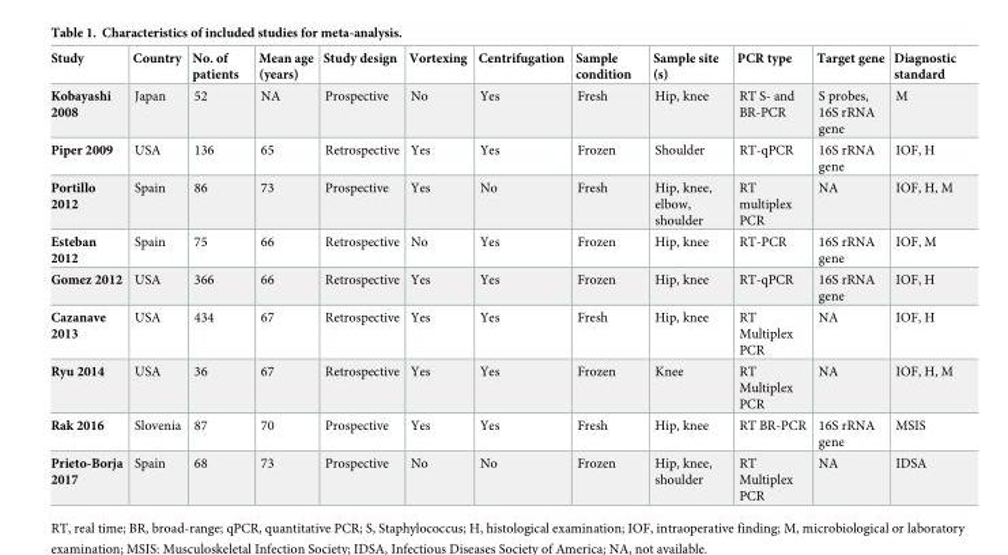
<table><thead><tr><td>Study</td><td>Country</td><td>No. of patients</td><td>Mean age (years)</td><td>Study design</td><td>Vortexing</td><td>Centrifugation</td><td>Sample condition</td><td>Sample site (s)</td><td>PCR type</td><td>Target gene</td><td>Diagnostic standard</td></tr></thead><tbody><tr><td>Kobayashi 2008</td><td>Japan</td><td>52</td><td>NA</td><td>Prospective</td><td>No</td><td>Yes</td><td>Fresh</td><td>Hip, knee</td><td>RT S- and BR-PCR</td><td>S probes, 16S rRNA gene</td><td>M</td></tr><tr><td>Piper 2009</td><td>USA</td><td>136</td><td>65</td><td>Retrospective</td><td>Yes</td><td>Yes</td><td>Frozen</td><td>Shoulder</td><td>RT-qPCR</td><td>16S rRNA gene</td><td>IOF, H</td></tr><tr><td>Portillo 2012</td><td>Spain</td><td>86</td><td>73</td><td>Prospective</td><td>Yes</td><td>No</td><td>Fresh</td><td>Hip, knee, elbow, shoulder</td><td>RT multiplex PCR</td><td>NA</td><td>IOF, H, M</td></tr><tr><td>Esteban 2012</td><td>Spain</td><td>75</td><td>66</td><td>Retrospective</td><td>No</td><td>Yes</td><td>Frozen</td><td>Hip, knee</td><td>RT-PCR</td><td>16S rRNA gene</td><td>IOF, M</td></tr><tr><td>Gomez 2012</td><td>USA</td><td>366</td><td>66</td><td>Retrospective</td><td>Yes</td><td>Yes</td><td>Frozen</td><td>Hip, knee</td><td>RT-qPCR</td><td>16S rRNA gene</td><td>IOF, H</td></tr><tr><td>Cazanave 2013</td><td>USA</td><td>434</td><td>67</td><td>Retrospective</td><td>Yes</td><td>Yes</td><td>Fresh</td><td>Hip, knee</td><td>RT Multiplex PCR</td><td>NA</td><td>IOF, H</td></tr><tr><td>Ryu 2014</td><td>USA</td><td>36</td><td>67</td><td>Retrospective</td><td>Yes</td><td>Yes</td><td>Frozen</td><td>Knee</td><td>RT Multiplex PCR</td><td>NA</td><td>IOF, H, M</td></tr><tr><td>Rak 2016</td><td>Slovenia</td><td>87</td><td>70</td><td>Prospective</td><td>Yes</td><td>Yes</td><td>Fresh</td><td>Hip, knee</td><td>RT BR-PCR</td><td>16S rRNA gene</td><td>MSIS</td></tr><tr><td>Prieto-Borja 2017</td><td>Spain</td><td>68</td><td>73</td><td>Prospective</td><td>No</td><td>No</td><td>Frozen</td><td>Hip, knee, shoulder</td><td>RT Multiplex PCR</td><td>NA</td><td>IDSA</td></tr></tbody></table>